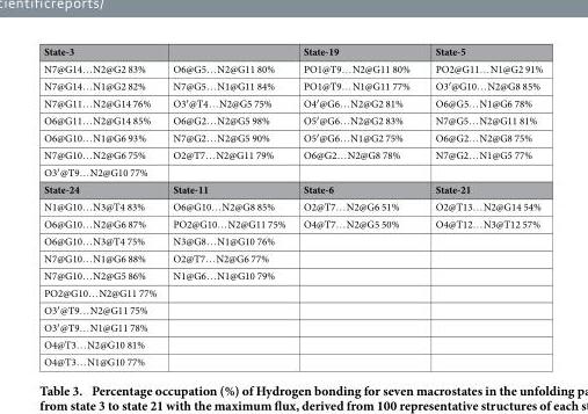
<table><thead><tr><td>State-3</td><td></td><td>State-19</td><td>State-5</td></tr></thead><tbody><tr><td>N7@G14… N2@G2 83%</td><td>O6@G5… N2@G11 80%</td><td>PO1@T9… N2@G11 80%</td><td>PO2@G11… N1@G2 91%</td></tr><tr><td>N7@G14… N1@G2 82%</td><td>N7@G5… N1@G11 84%</td><td>PO1@T9… N1@G11 77%</td><td>O3′ @G10… N2@G8 85%</td></tr><tr><td>N7@G11… N2@G14 76%</td><td>O3′ @T4… N2@G5 75%</td><td>O4′ @G6… N2@G2 81%</td><td>O6@G5… N1@G6 78%</td></tr><tr><td>O6@G11… N2@G14 85%</td><td>O6@G2… N2@G5 98%</td><td>O5′ @G6… N2@G2 83%</td><td>N7@G5… N2@G11 81%</td></tr><tr><td>O6@G10… N1@G6 93%</td><td>N7@G2… N2@G5 90%</td><td>O5′ @G6… N1@G2 75%</td><td>O6@G2… N2@G8 75%</td></tr><tr><td>N7@G10… N2@G6 75%</td><td>O2@T7… N2@G11 79%</td><td>O6@G2… N2@G8 78%</td><td>N7@G2… N1@G5 77%</td></tr><tr><td colspan="4">O3′ @T9… N2@G10 77%</td></tr><tr><td>State-24</td><td>State-11</td><td>State-6</td><td>State-21</td></tr><tr><td>N1@G10… N3@T4 83%</td><td>O6@G10… N2@G8 85%</td><td>O2@T7… N2@G6 51%</td><td>O2@T13… N2@G14 54%</td></tr><tr><td>O6@G10… N2@G6 87%</td><td>PO2@G10… N2@G11 75%</td><td>O4@T7… N2@G5 50%</td><td>O4@T12… N3@T12 57%</td></tr><tr><td>O6@G10… N3@T4 75%</td><td>N3@G8… N1@G10 76%</td><td></td><td></td></tr><tr><td>N7@G10… N1@G6 88%</td><td>O2@T7… N2@G6 77%</td><td></td><td></td></tr><tr><td>N7@G10… N2@G5 86%</td><td>N1@G6… N1@G10 79%</td><td></td><td></td></tr><tr><td colspan="4">PO2@G10… N2@G11 77%</td></tr><tr><td colspan="4">O3′ @T9… N2@G11 75%</td></tr><tr><td colspan="4">O3′ @T9… N1@G11 78%</td></tr><tr><td colspan="4">O4@T3… N2@G10 81%</td></tr><tr><td>O4@T3… N1@G10 77%</td><td></td><td></td><td></td></tr></tbody></table>